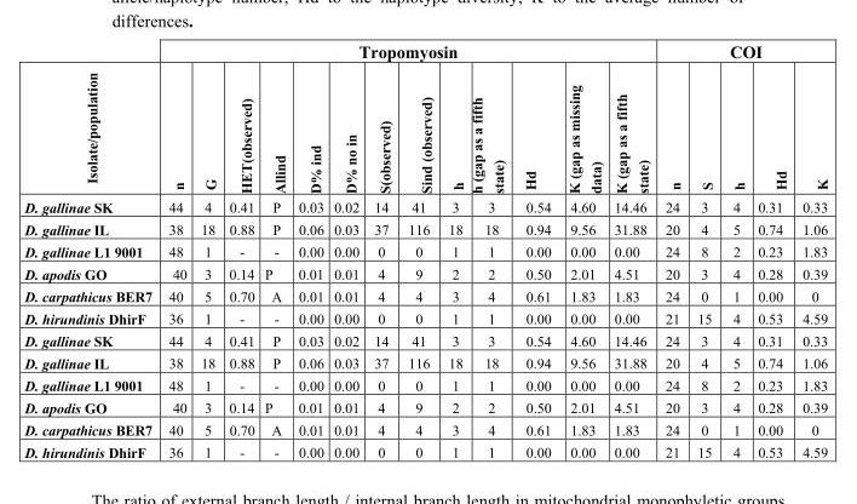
<table><thead><tr><td rowspan="2">Isolate/population</td><td colspan="13">Tropomyosin</td><td colspan="5">COI</td></tr><tr><td>n</td><td>G</td><td>HET(observed)</td><td>Allind</td><td>D% ind</td><td>D% no in</td><td>S(observed)</td><td>Sind (observed)</td><td>h</td><td>h (gap as a fifth state)</td><td>Hd</td><td>K (gap as missing data)</td><td>K (gap as a fifth state)</td><td>n</td><td>S</td><td>h</td><td>Hd</td><td>K</td></tr></thead><tbody><tr><td>D. gallinae SK</td><td>44</td><td>4</td><td>0.41</td><td>P</td><td>0.03</td><td>0.02</td><td>14</td><td>41</td><td>3</td><td>3</td><td>0.54</td><td>4.60</td><td>14.46</td><td>24</td><td>3</td><td>4</td><td>0.31</td><td>0.33</td></tr><tr><td>D. gallinae IL</td><td>38</td><td>18</td><td>0.88</td><td>P</td><td>0.06</td><td>0.03</td><td>37</td><td>116</td><td>18</td><td>18</td><td>0.94</td><td>9.56</td><td>31.88</td><td>20</td><td>4</td><td>5</td><td>0.74</td><td>1.06</td></tr><tr><td>D. gallinae L1 9001</td><td>48</td><td>1</td><td>-</td><td>-</td><td>0.00</td><td>0.00</td><td>0</td><td>0</td><td>1</td><td>1</td><td>0.00</td><td>0.00</td><td>0.00</td><td>24</td><td>8</td><td>2</td><td>0.23</td><td>1.83</td></tr><tr><td>D. apodis GO</td><td>40</td><td>3</td><td>0.14</td><td>P</td><td>0.01</td><td>0.01</td><td>4</td><td>9</td><td>2</td><td>2</td><td>0.50</td><td>2.01</td><td>4.51</td><td>20</td><td>3</td><td>4</td><td>0.28</td><td>0.39</td></tr><tr><td>D. carpathicus BER7</td><td>40</td><td>5</td><td>0.70</td><td>A</td><td>0.01</td><td>0.01</td><td>4</td><td>4</td><td>3</td><td>4</td><td>0.61</td><td>1.83</td><td>1.83</td><td>24</td><td>0</td><td>1</td><td>0.00</td><td>0</td></tr><tr><td>D. hirundinis DhirF</td><td>36</td><td>1</td><td>-</td><td>-</td><td>0.00</td><td>0.00</td><td>0</td><td>0</td><td>1</td><td>1</td><td>0.00</td><td>0.00</td><td>0.00</td><td>21</td><td>15</td><td>4</td><td>0.53</td><td>4.59</td></tr><tr><td>D. gallinae SK</td><td>44</td><td>4</td><td>0.41</td><td>P</td><td>0.03</td><td>0.02</td><td>14</td><td>41</td><td>3</td><td>3</td><td>0.54</td><td>4.60</td><td>14.46</td><td>24</td><td>3</td><td>4</td><td>0.31</td><td>0.33</td></tr><tr><td>D. gallinae IL</td><td>38</td><td>18</td><td>0.88</td><td>P</td><td>0.06</td><td>0.03</td><td>37</td><td>116</td><td>18</td><td>18</td><td>0.94</td><td>9.56</td><td>31.88</td><td>20</td><td>4</td><td>5</td><td>0.74</td><td>1.06</td></tr><tr><td>D. gallinae L1 9001</td><td>48</td><td>1</td><td>-</td><td>-</td><td>0.00</td><td>0.00</td><td>0</td><td>0</td><td>1</td><td>1</td><td>0.00</td><td>0.00</td><td>0.00</td><td>24</td><td>8</td><td>2</td><td>0.23</td><td>1.83</td></tr><tr><td>D. apodis GO</td><td>40</td><td>3</td><td>0.14</td><td>P</td><td>0.01</td><td>0.01</td><td>4</td><td>9</td><td>2</td><td>2</td><td>0.50</td><td>2.01</td><td>4.51</td><td>20</td><td>3</td><td>4</td><td>0.28</td><td>0.39</td></tr><tr><td>D. carpathicus BER7</td><td>40</td><td>5</td><td>0.70</td><td>A</td><td>0.01</td><td>0.01</td><td>4</td><td>4</td><td>3</td><td>4</td><td>0.61</td><td>1.83</td><td>1.83</td><td>24</td><td>0</td><td>1</td><td>0.00</td><td>0</td></tr><tr><td>D. hirundinis DhirF</td><td>36</td><td>1</td><td>-</td><td>-</td><td>0.00</td><td>0.00</td><td>0</td><td>0</td><td>1</td><td>1</td><td>0.00</td><td>0.00</td><td>0.00</td><td>21</td><td>15</td><td>4</td><td>0.53</td><td>4.59</td></tr></tbody></table>